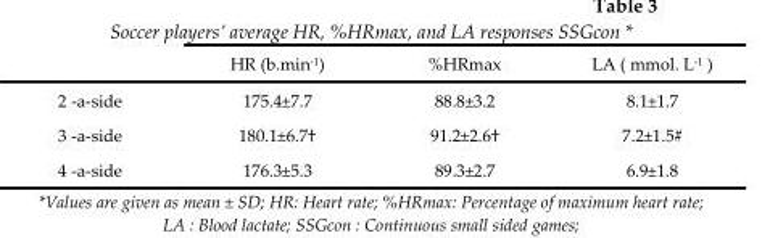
<table><thead><tr><td></td><td>HR (b.min-1)</td><td>%HRmax</td><td>LA ( mmol. L-1 )</td></tr></thead><tbody><tr><td>2 -a-side</td><td>175.4±7.7</td><td>88.8±3.2</td><td>8.1±1.7</td></tr><tr><td>3 -a-side</td><td>180.1±6.7<sup>†</sup></td><td>91.2±2.6<sup>†</sup></td><td>7.2±1.5#</td></tr><tr><td>4 -a-side</td><td>176.3±5.3</td><td>89.3±2.7</td><td>6.9±1.8</td></tr></tbody></table>